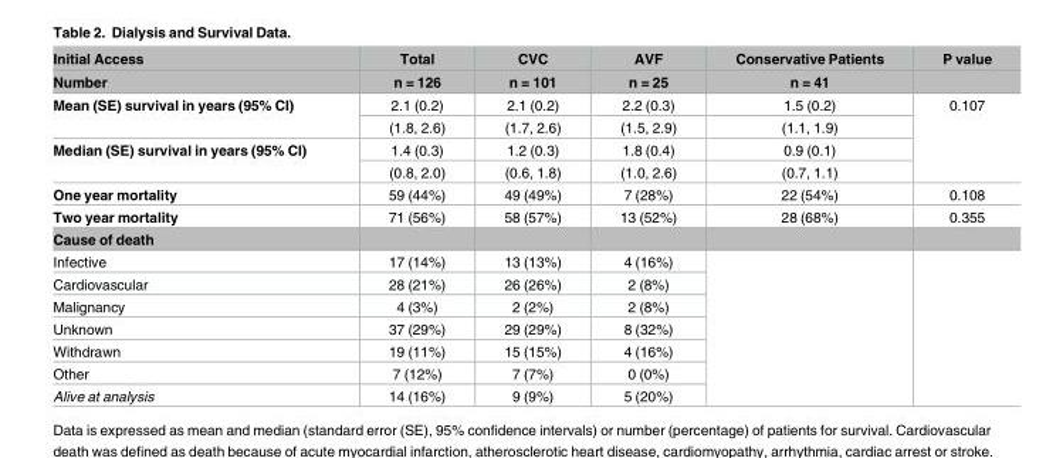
<table><thead><tr><td rowspan="2">Initial Access Number</td><td rowspan="2">Total n = 126</td><td rowspan="2">CVC n = 101</td><td rowspan="2">AVF n = 25</td><td rowspan="2">Conservative Patients n = 41</td><td rowspan="2">P value</td></tr><tr></tr></thead><tbody><tr><td rowspan="2">Mean (SE) survival in years (95% CI)</td><td>2.1 (0.2)</td><td>2.1 (0.2)</td><td>2.2 (0.3)</td><td>1.5 (0.2)</td><td rowspan="4">0.107</td></tr><tr><td>(1.8, 2.6)</td><td>(1.7, 2.6)</td><td>(1.5, 2.9)</td><td>(1.1, 1.9)</td></tr><tr><td rowspan="2">Median (SE) survival in years (95% CI)</td><td>1.4 (0.3)</td><td>1.2 (0.3)</td><td>1.8 (0.4)</td><td>0.9 (0.1)</td></tr><tr><td>(0.8, 2.0)</td><td>(0.6, 1.8)</td><td>(1.0, 2.6)</td><td>(0.7, 1.1)</td></tr><tr><td>One year mortality</td><td>59 (44%)</td><td>49 (49%)</td><td>7 (28%)</td><td>22 (54%)</td><td>0.108</td></tr><tr><td>Two year mortality</td><td>71 (56%)</td><td>58 (57%)</td><td>13 (52%)</td><td>28 (68%)</td><td>0.355</td></tr><tr><td colspan="6">Cause of death</td></tr><tr><td>Infective</td><td>17 (14%)</td><td>13 (13%)</td><td>4 (16%)</td><td rowspan="7"></td><td rowspan="7"></td></tr><tr><td>Cardiovascular</td><td>28 (21%)</td><td>26 (26%)</td><td>2 (8%)</td></tr><tr><td>Malignancy</td><td>4 (3%)</td><td>2 (2%)</td><td>2 (8%)</td></tr><tr><td>Unknown</td><td>37 (29%)</td><td>29 (29%)</td><td>8 (32%)</td></tr><tr><td>Withdrawn</td><td>19 (11%)</td><td>15 (15%)</td><td>4 (16%)</td></tr><tr><td>Other</td><td>7 (12%)</td><td>7 (7%)</td><td>0 (0%)</td></tr><tr><td>Alive at analysis</td><td>14 (16%)</td><td>9 (9%)</td><td>5 (20%)</td></tr></tbody></table>